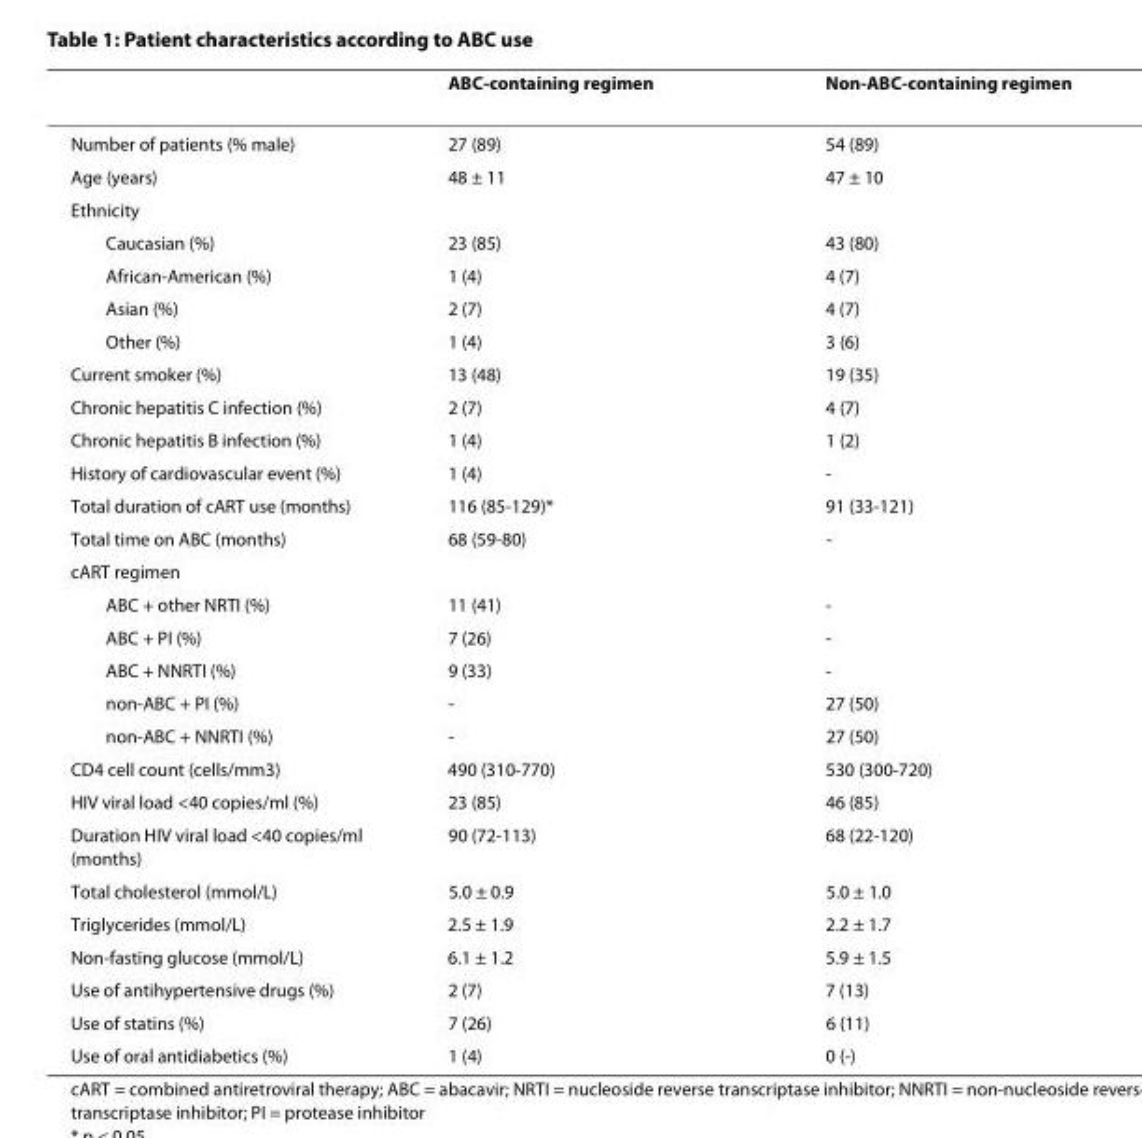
<table><thead><tr><td></td><td>ABC-containing regimen</td><td>Non-ABC-containing regimen</td></tr></thead><tbody><tr><td>Number of patients (% male)</td><td>27 (89)</td><td>54 (89)</td></tr><tr><td>Age (years)</td><td>48 ± 11</td><td>47 ± 10</td></tr><tr><td colspan="3">Ethnicity</td></tr><tr><td>Caucasian (%)</td><td>23 (85)</td><td>43 (80)</td></tr><tr><td>African-American (%)</td><td>1 (4)</td><td>4 (7)</td></tr><tr><td>Asian (%)</td><td>2 (7)</td><td>4 (7)</td></tr><tr><td>Other (%)</td><td>1 (4)</td><td>3 (6)</td></tr><tr><td>Current smoker (%)</td><td>13 (48)</td><td>19 (35)</td></tr><tr><td>Chronic hepatitis C infection (%)</td><td>2 (7)</td><td>4 (7)</td></tr><tr><td>Chronic hepatitis B infection (%)</td><td>1 (4)</td><td>1 (2)</td></tr><tr><td>History of cardiovascular event (%)</td><td>1 (4)</td><td>-</td></tr><tr><td>Total duration of cART use (months)</td><td>116 (85-129)*</td><td>91 (33-121)</td></tr><tr><td>Total time on ABC (months)</td><td>68 (59-80)</td><td>-</td></tr><tr><td colspan="3">cART regimen</td></tr><tr><td>ABC + other NRTI (%)</td><td>11 (41)</td><td>-</td></tr><tr><td>ABC + PI (%)</td><td>7 (26)</td><td>-</td></tr><tr><td>ABC + NNRTI (%)</td><td>9 (33)</td><td>-</td></tr><tr><td>non-ABC + PI (%)</td><td>-</td><td>27 (50)</td></tr><tr><td>non-ABC + NNRTI (%)</td><td>-</td><td>27 (50)</td></tr><tr><td>CD4 cell count (cells/mm3)</td><td>490 (310-770)</td><td>530 (300-720)</td></tr><tr><td>HIV viral load &lt;40 copies/ml (%)</td><td>23 (85)</td><td>46 (85)</td></tr><tr><td>Duration HIV viral load &lt;40 copies/ml (months)</td><td>90 (72-113)</td><td>68 (22-120)</td></tr><tr><td>Total cholesterol (mmol/L)</td><td>5.0 ± 0.9</td><td>5.0 ± 1.0</td></tr><tr><td>Triglycerides (mmol/L)</td><td>2.5 ± 1.9</td><td>2.2 ± 1.7</td></tr><tr><td>Non-fasting glucose (mmol/L)</td><td>6.1 ± 1.2</td><td>5.9 ± 1.5</td></tr><tr><td>Use of antihypertensive drugs (%)</td><td>2 (7)</td><td>7 (13)</td></tr><tr><td>Use of statins (%)</td><td>7 (26)</td><td>6 (11)</td></tr><tr><td>Use of oral antidiabetics (%)</td><td>1 (4)</td><td>0 (-)</td></tr></tbody></table>